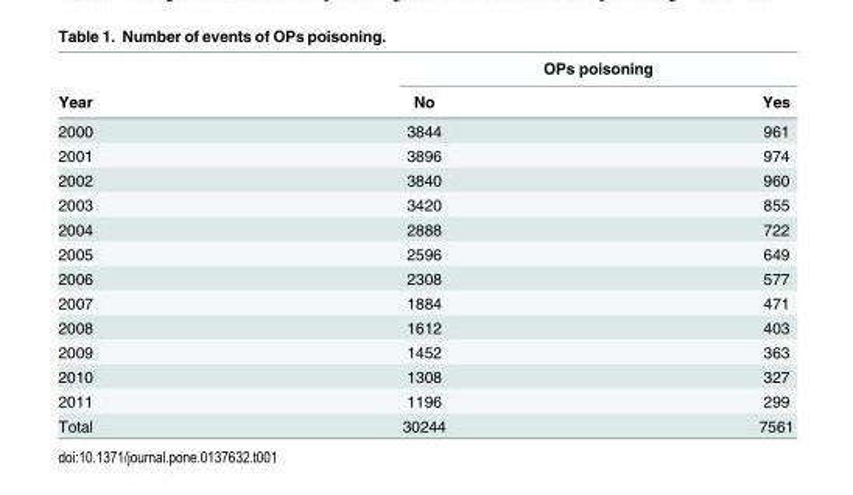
<table><thead><tr><td rowspan="2">Year</td><td colspan="2">OPs poisoning</td></tr><tr><td>No</td><td>Yes</td></tr></thead><tbody><tr><td>2000</td><td>3844</td><td>961</td></tr><tr><td>2001</td><td>3896</td><td>974</td></tr><tr><td>2002</td><td>3840</td><td>960</td></tr><tr><td>2003</td><td>3420</td><td>855</td></tr><tr><td>2004</td><td>2888</td><td>722</td></tr><tr><td>2005</td><td>2596</td><td>649</td></tr><tr><td>2006</td><td>2308</td><td>577</td></tr><tr><td>2007</td><td>1884</td><td>471</td></tr><tr><td>2008</td><td>1612</td><td>403</td></tr><tr><td>2009</td><td>1452</td><td>363</td></tr><tr><td>2010</td><td>1308</td><td>327</td></tr><tr><td>2011</td><td>1196</td><td>299</td></tr><tr><td>Total</td><td>30244</td><td>7561</td></tr></tbody></table>